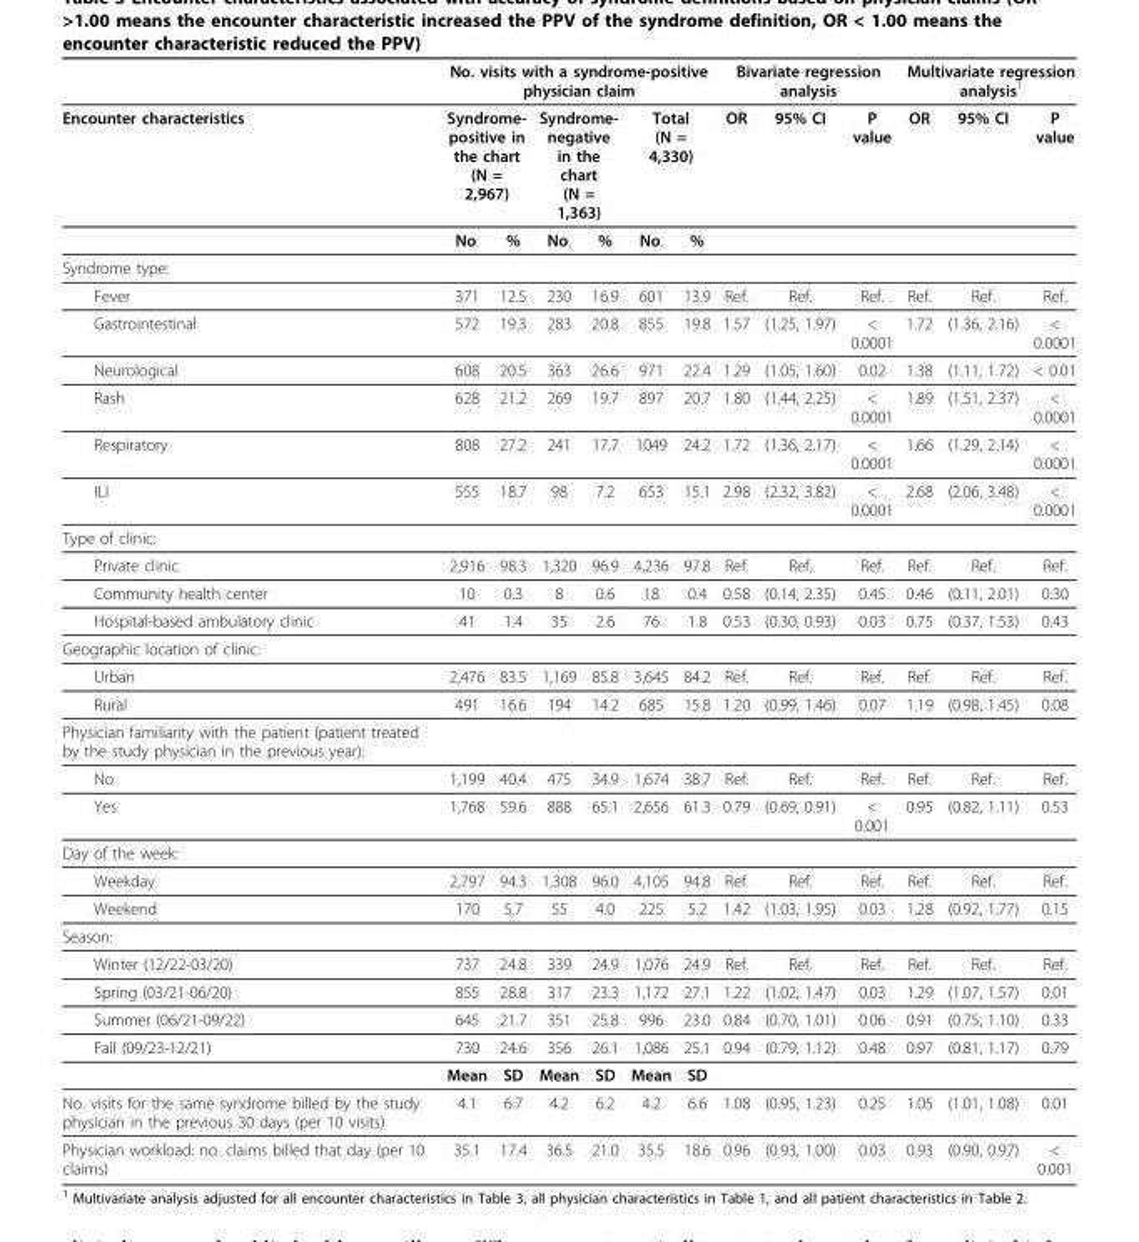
<table><thead><tr><td rowspan="3">Encounter characteristics</td><td colspan="6">No. visits with a syndrome-positive physician claim</td><td colspan="3">Bivariate regression analysis</td><td colspan="3">Multivariate regression analysis1</td></tr><tr><td colspan="2">Syndrome- positive in the chart (N = 2,967)</td><td colspan="2">Syndrome- negative in the chart (N = 1,363)</td><td colspan="2">Total (N = 4,330)</td><td rowspan="2">OR</td><td rowspan="2">95% CI</td><td rowspan="2">P value</td><td rowspan="2">OR</td><td rowspan="2">95% CI</td><td rowspan="2">P value</td></tr><tr><td>No.</td><td>%</td><td>No.</td><td>%</td><td>No.</td><td>%</td></tr></thead><tbody><tr><td colspan="13">Syndrome type:</td></tr><tr><td>Fever</td><td>371</td><td>12.5</td><td>230</td><td>16.9</td><td>601</td><td>13.9</td><td>Ref.</td><td>Ref.</td><td>Ref.</td><td>Ref.</td><td>Ref.</td><td>Ref.</td></tr><tr><td>Gastrointestinal</td><td>572</td><td>19.3</td><td>283</td><td>20.8</td><td>855</td><td>19.8</td><td>1.57</td><td>(1.25, 1.97)</td><td>&lt; 0.0001</td><td>1.72</td><td>(1.36, 2.16)</td><td>&lt; 0.0001</td></tr><tr><td>Neurological</td><td>608</td><td>20.5</td><td>363</td><td>26.6</td><td>971</td><td>22.4</td><td>1.29</td><td>(1.05, 1.60)</td><td>0.02</td><td>1.38</td><td>(1.11, 1.72)</td><td>&lt; 0.01</td></tr><tr><td>Rash</td><td>628</td><td>21.2</td><td>269</td><td>19.7</td><td>897</td><td>20.7</td><td>1.80</td><td>(1.44, 2.25)</td><td>&lt; 0.0001</td><td>1.89</td><td>(1.51, 2.37)</td><td>&lt; 0.0001</td></tr><tr><td>Respiratory</td><td>808</td><td>27.2</td><td>241</td><td>17.7</td><td>1049</td><td>24.2</td><td>1.72</td><td>(1.36, 2.17)</td><td>&lt; 0.0001</td><td>1.66</td><td>(1.29, 2.14)</td><td>&lt; 0.0001</td></tr><tr><td>ILI</td><td>555</td><td>18.7</td><td>98</td><td>7.2</td><td>653</td><td>15.1</td><td>2.98</td><td>(2.32, 3.82)</td><td>&lt; 0.0001</td><td>2.68</td><td>(2.06, 3.48)</td><td>&lt; 0.0001</td></tr><tr><td colspan="13">Type of clinic:</td></tr><tr><td>Private clinic</td><td>2,916</td><td>98.3</td><td>1,320</td><td>96.9</td><td>4,236</td><td>97.8</td><td>Ref.</td><td>Ref.</td><td>Ref.</td><td>Ref.</td><td>Ref.</td><td>Ref.</td></tr><tr><td>Community health center</td><td>10</td><td>0.3</td><td>8</td><td>0.6</td><td>18</td><td>0.4</td><td>0.58</td><td>(0.14, 2.35)</td><td>0.45</td><td>0.46</td><td>(0.11, 2.01)</td><td>0.30</td></tr><tr><td>Hospital-based ambulatory clinic</td><td>41</td><td>1.4</td><td>35</td><td>2.6</td><td>76</td><td>1.8</td><td>0.53</td><td>(0.30, 0.93)</td><td>0.03</td><td>0.75</td><td>(0.37, 1.53)</td><td>0.43</td></tr><tr><td colspan="13">Geographic location of clinic:</td></tr><tr><td>Urban</td><td>2,476</td><td>83.5</td><td>1,169</td><td>85.8</td><td>3,645</td><td>84.2</td><td>Ref.</td><td>Ref.</td><td>Ref.</td><td>Ref.</td><td>Ref.</td><td>Ref.</td></tr><tr><td>Rural</td><td>491</td><td>16.6</td><td>194</td><td>14.2</td><td>685</td><td>15.8</td><td>1.20</td><td>(0.99, 1.46)</td><td>0.07</td><td>1.19</td><td>(0.98, 1.45)</td><td>0.08</td></tr><tr><td colspan="13">Physician familiarity with the patient (patient treated by the study physician in the previous year):</td></tr><tr><td>No</td><td>1,199</td><td>40.4</td><td>475</td><td>34.9</td><td>1,674</td><td>38.7</td><td>Ref.</td><td>Ref.</td><td>Ref.</td><td>Ref.</td><td>Ref.</td><td>Ref.</td></tr><tr><td>Yes</td><td>1,768</td><td>59.6</td><td>888</td><td>65.1</td><td>2,656</td><td>61.3</td><td>0.79</td><td>(0.69, 0.91)</td><td>&lt; 0.001</td><td>0.95</td><td>(0.82, 1.11)</td><td>0.53</td></tr><tr><td colspan="13">Day of the week:</td></tr><tr><td>Weekday</td><td>2,797</td><td>94.3</td><td>1,308</td><td>96.0</td><td>4,105</td><td>94.8</td><td>Ref.</td><td>Ref.</td><td>Ref.</td><td>Ref.</td><td>Ref.</td><td>Ref.</td></tr><tr><td>Weekend</td><td>170</td><td>5.7</td><td>55</td><td>4.0</td><td>225</td><td>5.2</td><td>1.42</td><td>(1.03, 1.95)</td><td>0.03</td><td>1.28</td><td>(0.92, 1.77)</td><td>0.15</td></tr><tr><td colspan="13">Season:</td></tr><tr><td>Winter (12/22-03/20)</td><td>737</td><td>24.8</td><td>339</td><td>24.9</td><td>1,076</td><td>24.9</td><td>Ref.</td><td>Ref.</td><td>Ref.</td><td>Ref.</td><td>Ref.</td><td>Ref.</td></tr><tr><td>Spring (03/21-06/20)</td><td>855</td><td>28.8</td><td>317</td><td>23.3</td><td>1,172</td><td>27.1</td><td>1.22</td><td>(1.02, 1.47)</td><td>0.03</td><td>1.29</td><td>(1.07, 1.57)</td><td>0.01</td></tr><tr><td>Summer (06/21-09/22)</td><td>645</td><td>21.7</td><td>351</td><td>25.8</td><td>996</td><td>23.0</td><td>0.84</td><td>(0.70, 1.01)</td><td>0.06</td><td>0.91</td><td>(0.75, 1.10)</td><td>0.33</td></tr><tr><td rowspan="2">Fall (09/23-12/21)</td><td>730</td><td>24.6</td><td>356</td><td>26.1</td><td>1,086</td><td>25.1</td><td>0.94</td><td>(0.79, 1.12)</td><td>0.48</td><td>0.97</td><td>(0.81, 1.17)</td><td>0.79</td></tr><tr><td>Mean</td><td>SD</td><td>Mean</td><td>SD</td><td>Mean</td><td>SD</td><td></td><td></td><td></td><td></td><td></td><td></td></tr><tr><td>No. visits for the same syndrome billed by the study physician in the previous 30 days (per 10 visits)</td><td>4.1</td><td>6.7</td><td>4.2</td><td>6.2</td><td>4.2</td><td>6.6</td><td>1.08</td><td>(0.95, 1.23)</td><td>0.25</td><td>1.05</td><td>(1.01, 1.08)</td><td>0.01</td></tr><tr><td>Physician workload: no. claims billed that day (per 10 claims)</td><td>35.1</td><td>17.4</td><td>36.5</td><td>21.0</td><td>35.5</td><td>18.6</td><td>0.96</td><td>(0.93, 1.00)</td><td>0.03</td><td>0.93</td><td>(0.90, 0.97)</td><td>&lt; 0.001</td></tr></tbody></table>